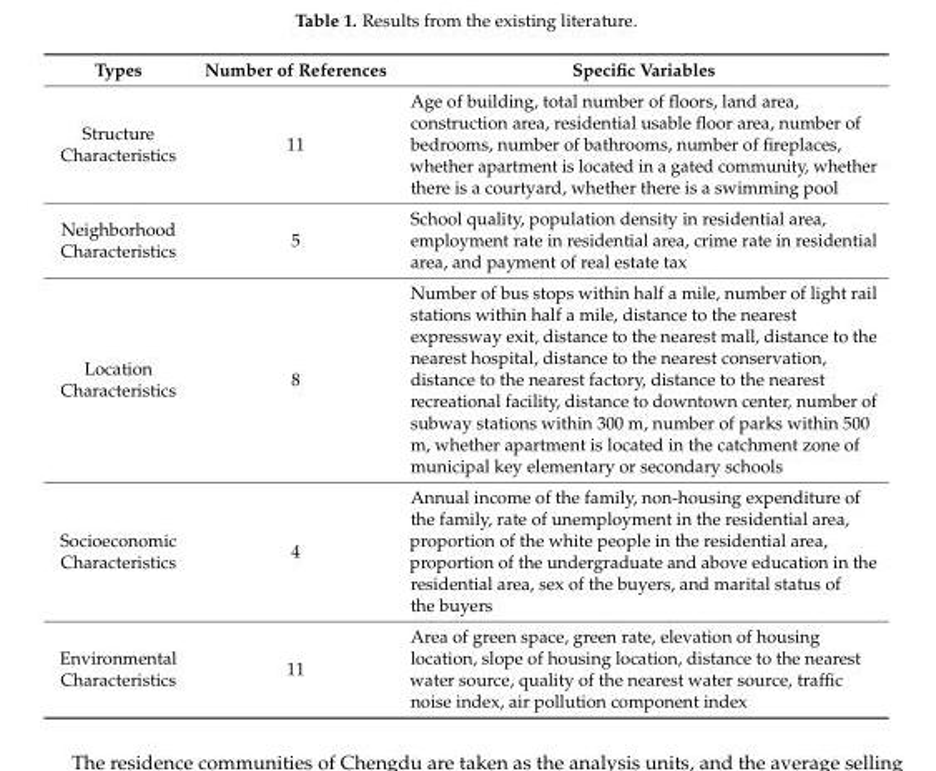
<table><thead><tr><td>Types</td><td>Number of References</td><td>Specific Variables</td></tr></thead><tbody><tr><td>Structure Characteristics</td><td>11</td><td>Age of building, total number of floors, land area, construction area, residential usable floor area, number of bedrooms, number of bathrooms, number of fireplaces, whether apartment is located in a gated community, whether there is a courtyard, whether there is a swimming pool</td></tr><tr><td>Neighborhood Characteristics</td><td>5</td><td>School quality, population density in residential area, employment rate in residential area, crime rate in residential area, and payment of real estate tax</td></tr><tr><td>Location Characteristics</td><td>8</td><td>Number of bus stops within half a mile, number of light rail stations within half a mile, distance to the nearest expressway exit, distance to the nearest mall, distance to the nearest hospital, distance to the nearest conservation, distance to the nearest factory, distance to the nearest recreational facility, distance to downtown center, number of subway stations within 300 m, number of parks within 500 m, whether apartment is located in the catchment zone of municipal key elementary or secondary schools</td></tr><tr><td>Socioeconomic Characteristics</td><td>4</td><td>Annual income of the family, non-housing expenditure of the family, rate of unemployment in the residential area, proportion of the white people in the residential area, proportion of the undergraduate and above education in the residential area, sex of the buyers, and marital status of the buyers</td></tr><tr><td>Environmental Characteristics</td><td>11</td><td>Area of green space, green rate, elevation of housing location, slope of housing location, distance to the nearest water source, quality of the nearest water source, traffic noise index, air pollution component index</td></tr></tbody></table>